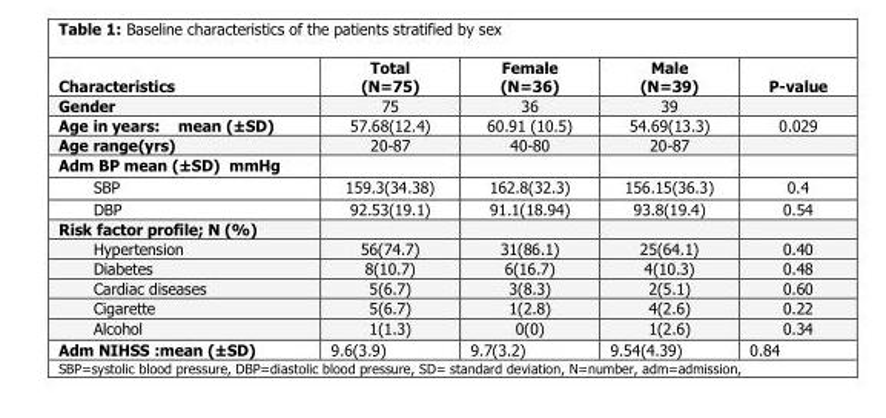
<table><thead><tr><td>Characteristics</td><td>Total (N=75)</td><td>Female (N=36)</td><td>Male (N=39)</td><td>P-value</td></tr></thead><tbody><tr><td>Gender</td><td>75</td><td>36</td><td>39</td><td></td></tr><tr><td>Age in years: mean (±SD)</td><td>57.68(12.4)</td><td>60.91 (10.5)</td><td>54.69(13.3)</td><td>0.029</td></tr><tr><td>Age range(yrs)</td><td>20-87</td><td>40-80</td><td>20-87</td><td></td></tr><tr><td colspan="5">Adm BP mean (±SD) mmHg</td></tr><tr><td>SBP</td><td>159.3(34.38)</td><td>162.8(32.3)</td><td>156.15(36.3)</td><td>0.4</td></tr><tr><td>DBP</td><td>92.53(19.1)</td><td>91.1(18.94)</td><td>93.8(19.4)</td><td>0.54</td></tr><tr><td colspan="5">Risk factor profile; N (%)</td></tr><tr><td>Hypertension</td><td>56(74.7)</td><td>31(86.1)</td><td>25(64.1)</td><td>0.40</td></tr><tr><td>Diabetes</td><td>8(10.7)</td><td>6(16.7)</td><td>4(10.3)</td><td>0.48</td></tr><tr><td>Cardiac diseases</td><td>5(6.7)</td><td>3(8.3)</td><td>2(5.1)</td><td>0.60</td></tr><tr><td>Cigarette</td><td>5(6.7)</td><td>1(2.8)</td><td>4(2.6)</td><td>0.22</td></tr><tr><td>Alcohol</td><td>1(1.3)</td><td>0(0)</td><td>1(2.6)</td><td>0.34</td></tr><tr><td>Adm NIHSS :mean (±SD)</td><td>9.6(3.9)</td><td>9.7(3.2)</td><td>9.54(4.39)</td><td>0.84</td></tr></tbody></table>